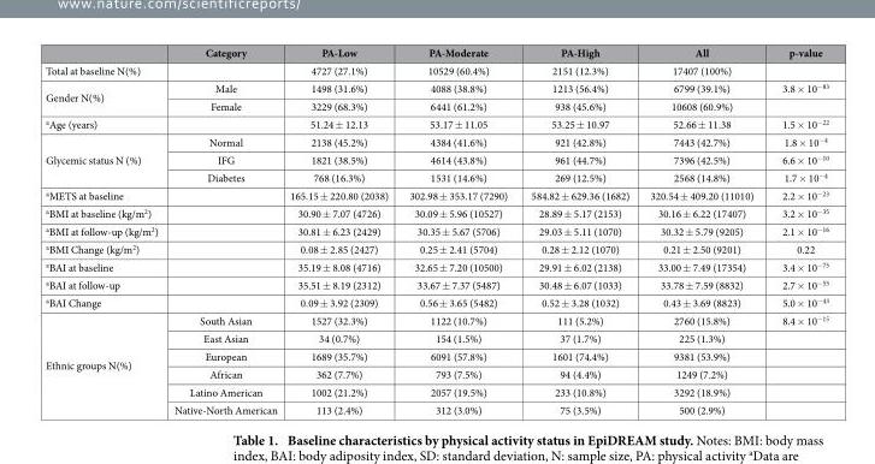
<table><thead><tr><td></td><td>Category</td><td>PA-Low</td><td>PA-Moderate</td><td>PA-High</td><td>All</td><td>p-value</td></tr></thead><tbody><tr><td>Total at baseline N(%)</td><td></td><td>4727 (27.1%)</td><td>10529 (60.4%)</td><td>2151 (12.3%)</td><td>17407 (100%)</td><td></td></tr><tr><td rowspan="2">Gender N(%)</td><td>Male</td><td>1498 (31.6%)</td><td>4088 (38.8%)</td><td>1213 (56.4%)</td><td>6799 (39.1%)</td><td>3.8 × 10<sup>−83</sup></td></tr><tr><td>Female</td><td>3229 (68.3%)</td><td>6441 (61.2%)</td><td>938 (45.6%)</td><td>10608 (60.9%)</td><td></td></tr><tr><td>aAge (years)</td><td></td><td>51.24 ± 12.13</td><td>53.17 ± 11.05</td><td>53.25 ± 10.97</td><td>52.66 ± 11.38</td><td>1.5 × 10<sup>−22</sup></td></tr><tr><td rowspan="3">Glycemic status N (%)</td><td>Normal</td><td>2138 (45.2%)</td><td>4384 (41.6%)</td><td>921 (42.8%)</td><td>7443 (42.7%)</td><td>1.8 × 10<sup>−4</sup></td></tr><tr><td>IFG</td><td>1821 (38.5%)</td><td>4614 (43.8%)</td><td>961 (44.7%)</td><td>7396 (42.5%)</td><td>6.6 × 10<sup>−10</sup></td></tr><tr><td>Diabetes</td><td>768 (16.3%)</td><td>1531 (14.6%)</td><td>269 (12.5%)</td><td>2568 (14.8%)</td><td>1.7 × 10<sup>−4</sup></td></tr><tr><td>aMETS at baseline</td><td></td><td>165.15 ± 220.80 (2038)</td><td>302.98 ± 353.17 (7290)</td><td>584.82 ± 629.36 (1682)</td><td>320.54 ± 409.20 (11010)</td><td>2.2 × 10<sup>−23</sup></td></tr><tr><td>aBMI at baseline (kg/m<sup>2</sup>)</td><td></td><td>30.90 ± 7.07 (4726)</td><td>30.09 ± 5.96 (10527)</td><td>28.89 ± 5.17 (2153)</td><td>30.16 ± 6.22 (17407)</td><td>3.2 × 10<sup>−35</sup></td></tr><tr><td>aBMI at follow-up (kg/m<sup>2</sup>)</td><td></td><td>30.81 ± 6.23 (2429)</td><td>30.35 ± 5.67 (5706)</td><td>29.03 ± 5.11 (1070)</td><td>30.32 ± 5.79 (9205)</td><td>2.1 × 10<sup>−16</sup></td></tr><tr><td>aBMI Change (kg/m<sup>2</sup>)</td><td></td><td>0.08 ± 2.85 (2427)</td><td>0.25 ± 2.41 (5704)</td><td>0.28 ± 2.12 (1070)</td><td>0.21 ± 2.50 (9201)</td><td>0.22</td></tr><tr><td>aBAI at baseline</td><td></td><td>35.19 ± 8.08 (4716)</td><td>32.65 ± 7.20 (10500)</td><td>29.91 ± 6.02 (2138)</td><td>33.00 ± 7.49 (17354)</td><td>3.4 × 10<sup>−75</sup></td></tr><tr><td>aBAI at follow-up</td><td></td><td>35.51 ± 8.19 (2312)</td><td>33.67 ± 7.37 (5487)</td><td>30.48 ± 6.07 (1033)</td><td>33.78 ± 7.59 (8832)</td><td>2.7 × 10<sup>−55</sup></td></tr><tr><td>aBAI Change</td><td></td><td>0.09 ± 3.92 (2309)</td><td>0.56 ± 3.65 (5482)</td><td>0.52 ± 3.28 (1032)</td><td>0.43 ± 3.69 (8823)</td><td>5.0 × 10<sup>−43</sup></td></tr><tr><td rowspan="6">Ethnic groups N(%)</td><td>South Asian</td><td>1527 (32.3%)</td><td>1122 (10.7%)</td><td>111 (5.2%)</td><td>2760 (15.8%)</td><td>8.4 × 10<sup>−15</sup></td></tr><tr><td>East Asian</td><td>34 (0.7%)</td><td>154 (1.5%)</td><td>37 (1.7%)</td><td>225 (1.3%)</td><td></td></tr><tr><td>European</td><td>1689 (35.7%)</td><td>6091 (57.8%)</td><td>1601 (74.4%)</td><td>9381 (53.9%)</td><td></td></tr><tr><td>African</td><td>362 (7.7%)</td><td>793 (7.5%)</td><td>94 (4.4%)</td><td>1249 (7.2%)</td><td></td></tr><tr><td>Latino American</td><td>1002 (21.2%)</td><td>2057 (19.5%)</td><td>233 (10.8%)</td><td>3292 (18.9%)</td><td></td></tr><tr><td>Native-North American</td><td>113 (2.4%)</td><td>312 (3.0%)</td><td>75 (3.5%)</td><td>500 (2.9%)</td><td></td></tr></tbody></table>